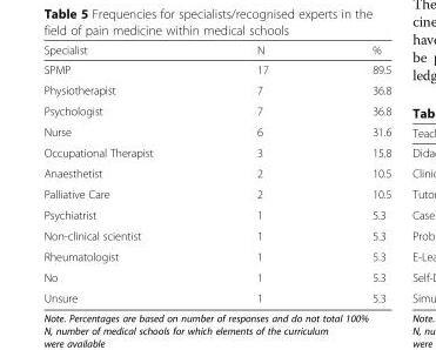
<table><thead><tr><td>Specialist</td><td>N</td><td>%</td></tr></thead><tbody><tr><td>SPMP</td><td>17</td><td>89.5</td></tr><tr><td>Physiotherapist</td><td>7</td><td>36.8</td></tr><tr><td>Psychologist</td><td>7</td><td>36.8</td></tr><tr><td>Nurse</td><td>6</td><td>31.6</td></tr><tr><td>Occupational Therapist</td><td>3</td><td>15.8</td></tr><tr><td>Anaesthetist</td><td>2</td><td>10.5</td></tr><tr><td>Palliative Care</td><td>2</td><td>10.5</td></tr><tr><td>Psychiatrist</td><td>1</td><td>5.3</td></tr><tr><td>Non-clinical scientist</td><td>1</td><td>5.3</td></tr><tr><td>Rheumatologist</td><td>1</td><td>5.3</td></tr><tr><td>No</td><td>1</td><td>5.3</td></tr><tr><td>Unsure</td><td>1</td><td>5.3</td></tr></tbody></table>